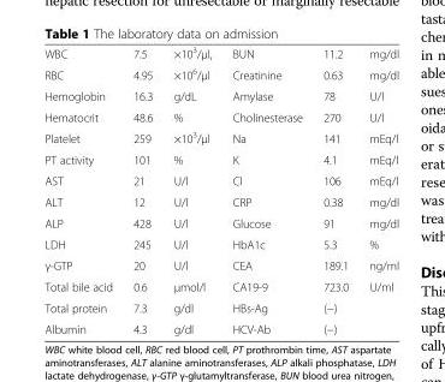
<table><tbody><tr><td>WBC</td><td>7.5</td><td>×10<sup>3</sup>/μl,</td><td>BUN</td><td>11.2</td><td>mg/dl</td></tr><tr><td>RBC</td><td>4.95</td><td>×10<sup>6</sup>/μl</td><td>Creatinine</td><td>0.63</td><td>mg/dl</td></tr><tr><td>Hemoglobin</td><td>16.3</td><td>g/dL</td><td>Amylase</td><td>78</td><td>U/l</td></tr><tr><td>Hematocrit</td><td>48.6</td><td>%</td><td>Cholinesterase</td><td>270</td><td>U/l</td></tr><tr><td>Platelet</td><td>259</td><td>×10<sup>3</sup>/μl</td><td>Na</td><td>141</td><td>mEq/l</td></tr><tr><td>PT activity</td><td>101</td><td>%</td><td>K</td><td>4.1</td><td>mEq/l</td></tr><tr><td>AST</td><td>21</td><td>U/l</td><td>Cl</td><td>106</td><td>mEq/l</td></tr><tr><td>ALT</td><td>12</td><td>U/l</td><td>CRP</td><td>0.38</td><td>mg/dl</td></tr><tr><td>ALP</td><td>428</td><td>U/l</td><td>Glucose</td><td>91</td><td>mg/dl</td></tr><tr><td>LDH</td><td>245</td><td>U/l</td><td>HbA1c</td><td>5.3</td><td>%</td></tr><tr><td>γ-GTP</td><td>20</td><td>U/l</td><td>CEA</td><td>189.1</td><td>ng/ml</td></tr><tr><td>Total bile acid</td><td>0.6</td><td>μmol/l</td><td>CA19-9</td><td>723.0</td><td>U/ml</td></tr><tr><td>Total protein</td><td>7.3</td><td>g/dl</td><td>HBs-Ag</td><td>(−)</td><td></td></tr><tr><td>Albumin</td><td>4.3</td><td>g/dl</td><td>HCV-Ab</td><td>(−)</td><td></td></tr></tbody></table>